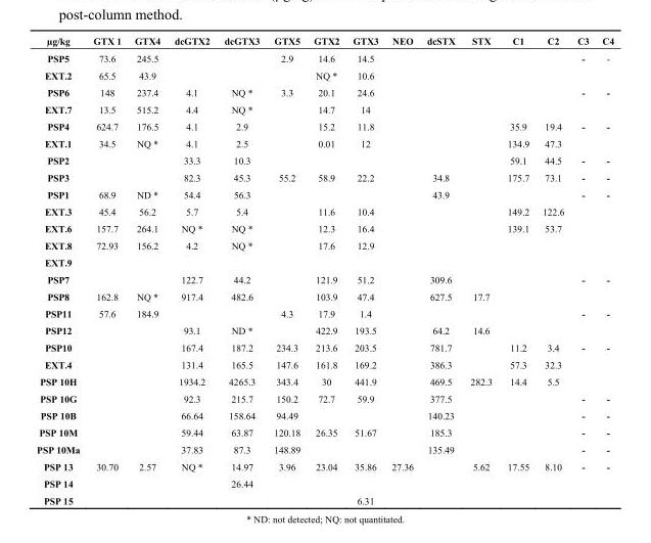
<table><thead><tr><td>µg/kg</td><td>GTX 1</td><td>GTX4</td><td>dcGTX2</td><td>dcGTX3</td><td>GTX5</td><td>GTX2</td><td>GTX3</td><td>NEO</td><td>dcSTX</td><td>STX</td><td>C1</td><td>C2</td><td>C3</td><td>C4</td></tr></thead><tbody><tr><td>PSP5</td><td>73.6</td><td>245.5</td><td></td><td></td><td>2.9</td><td>14.6</td><td>14.5</td><td></td><td></td><td></td><td></td><td></td><td>-</td><td>-</td></tr><tr><td>EXT.2</td><td>65.5</td><td>43.9</td><td></td><td></td><td></td><td>NQ *</td><td>10.6</td><td></td><td></td><td></td><td></td><td></td><td></td><td></td></tr><tr><td>PSP6</td><td>148</td><td>237.4</td><td>4.1</td><td>NQ *</td><td>3.3</td><td>20.1</td><td>24.6</td><td></td><td></td><td></td><td></td><td></td><td>-</td><td>-</td></tr><tr><td>EXT.7</td><td>13.5</td><td>515.2</td><td>4.4</td><td>NQ *</td><td></td><td>14.7</td><td>14</td><td></td><td></td><td></td><td></td><td></td><td></td><td></td></tr><tr><td>PSP4</td><td>624.7</td><td>176.5</td><td>4.1</td><td>2.9</td><td></td><td>15.2</td><td>11.8</td><td></td><td></td><td></td><td>35.9</td><td>19.4</td><td>-</td><td>-</td></tr><tr><td>EXT.1</td><td>34.5</td><td>NQ *</td><td>4.1</td><td>2.5</td><td></td><td>0.01</td><td>12</td><td></td><td></td><td></td><td>134.9</td><td>47.3</td><td></td><td></td></tr><tr><td>PSP2</td><td></td><td></td><td>33.3</td><td>10.3</td><td></td><td></td><td></td><td></td><td></td><td></td><td>59.1</td><td>44.5</td><td>-</td><td>-</td></tr><tr><td>PSP3</td><td></td><td></td><td>82.3</td><td>45.3</td><td>55.2</td><td>58.9</td><td>22.2</td><td></td><td>34.8</td><td></td><td>175.7</td><td>73.1</td><td>-</td><td>-</td></tr><tr><td>PSP1</td><td>68.9</td><td>ND *</td><td>54.4</td><td>56.3</td><td></td><td></td><td></td><td></td><td>43.9</td><td></td><td></td><td></td><td>-</td><td>-</td></tr><tr><td>EXT.3</td><td>45.4</td><td>56.2</td><td>5.7</td><td>5.4</td><td></td><td>11.6</td><td>10.4</td><td></td><td></td><td></td><td>149.2</td><td>122.6</td><td></td><td></td></tr><tr><td>EXT.6</td><td>157.7</td><td>264.1</td><td>NQ *</td><td>NQ *</td><td></td><td>12.3</td><td>16.4</td><td></td><td></td><td></td><td>139.1</td><td>53.7</td><td></td><td></td></tr><tr><td>EXT.8</td><td>72.93</td><td>156.2</td><td>4.2</td><td>NQ *</td><td></td><td>17.6</td><td>12.9</td><td></td><td></td><td></td><td></td><td></td><td></td><td></td></tr><tr><td colspan="15">EXT.9</td></tr><tr><td>PSP7</td><td></td><td></td><td>122.7</td><td>44.2</td><td></td><td>121.9</td><td>51.2</td><td></td><td>309.6</td><td></td><td></td><td></td><td>-</td><td>-</td></tr><tr><td>PSP8</td><td>162.8</td><td>NQ *</td><td>917.4</td><td>482.6</td><td></td><td>103.9</td><td>47.4</td><td></td><td>627.5</td><td>17.7</td><td></td><td></td><td></td><td></td></tr><tr><td>PSP11</td><td>57.6</td><td>184.9</td><td></td><td></td><td>4.3</td><td>17.9</td><td>1.4</td><td></td><td></td><td></td><td></td><td></td><td>-</td><td>-</td></tr><tr><td>PSP12</td><td></td><td></td><td>93.1</td><td>ND *</td><td></td><td>422.9</td><td>193.5</td><td></td><td>64.2</td><td>14.6</td><td></td><td></td><td></td><td></td></tr><tr><td>PSP10</td><td></td><td></td><td>167.4</td><td>187.2</td><td>234.3</td><td>213.6</td><td>203.5</td><td></td><td>781.7</td><td></td><td>11.2</td><td>3.4</td><td>-</td><td>-</td></tr><tr><td>EXT.4</td><td></td><td></td><td>131.4</td><td>165.5</td><td>147.6</td><td>161.8</td><td>169.2</td><td></td><td>386.3</td><td></td><td>57.3</td><td>32.3</td><td></td><td></td></tr><tr><td>PSP 10H</td><td></td><td></td><td>1934.2</td><td>4265.3</td><td>343.4</td><td>30</td><td>441.9</td><td></td><td>469.5</td><td>282.3</td><td>14.4</td><td>5.5</td><td></td><td></td></tr><tr><td>PSP 10G</td><td></td><td></td><td>92.3</td><td>215.7</td><td>150.2</td><td>72.7</td><td>59.9</td><td></td><td>377.5</td><td></td><td></td><td></td><td>-</td><td>-</td></tr><tr><td>PSP 10B</td><td></td><td></td><td>66.64</td><td>158.64</td><td>94.49</td><td></td><td></td><td></td><td>140.23</td><td></td><td></td><td></td><td>-</td><td>-</td></tr><tr><td>PSP 10M</td><td></td><td></td><td>59.44</td><td>63.87</td><td>120.18</td><td>26.35</td><td>51.67</td><td></td><td>185.3</td><td></td><td></td><td></td><td>-</td><td>-</td></tr><tr><td>PSP 10Ma</td><td></td><td></td><td>37.83</td><td>87.3</td><td>148.89</td><td></td><td></td><td></td><td>135.49</td><td></td><td></td><td></td><td>-</td><td>-</td></tr><tr><td>PSP 13</td><td>30.70</td><td>2.57</td><td>NQ *</td><td>14.97</td><td>3.96</td><td>23.04</td><td>35.86</td><td>27.36</td><td></td><td>5.62</td><td>17.55</td><td>8.10</td><td>-</td><td>-</td></tr><tr><td>PSP 14</td><td></td><td></td><td></td><td>26.44</td><td></td><td></td><td></td><td></td><td></td><td></td><td></td><td></td><td></td><td></td></tr><tr><td>PSP 15</td><td></td><td></td><td></td><td></td><td></td><td></td><td>6.31</td><td></td><td></td><td></td><td></td><td></td><td></td><td></td></tr></tbody></table>